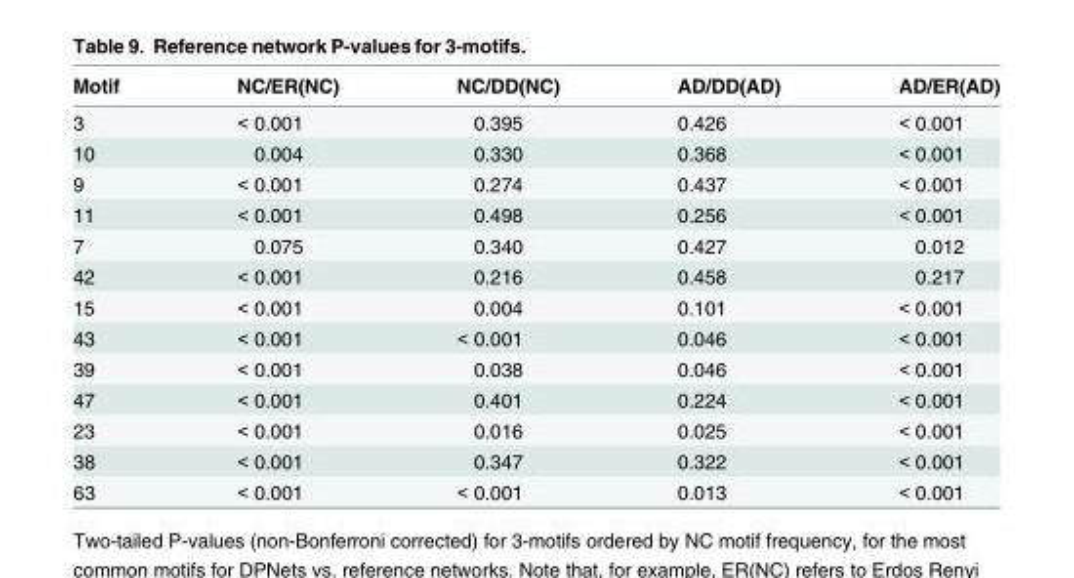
<table><thead><tr><td>Motif</td><td>NC/ER(NC)</td><td>NC/DD(NC)</td><td>AD/DD(AD)</td><td>AD/ER(AD)</td></tr></thead><tbody><tr><td>3</td><td>&lt; 0.001</td><td>0.395</td><td>0.426</td><td>&lt; 0.001</td></tr><tr><td>10</td><td>0.004</td><td>0.330</td><td>0.368</td><td>&lt; 0.001</td></tr><tr><td>9</td><td>&lt; 0.001</td><td>0.274</td><td>0.437</td><td>&lt; 0.001</td></tr><tr><td>11</td><td>&lt; 0.001</td><td>0.498</td><td>0.256</td><td>&lt; 0.001</td></tr><tr><td>7</td><td>0.075</td><td>0.340</td><td>0.427</td><td>0.012</td></tr><tr><td>42</td><td>&lt; 0.001</td><td>0.216</td><td>0.458</td><td>0.217</td></tr><tr><td>15</td><td>&lt; 0.001</td><td>0.004</td><td>0.101</td><td>&lt; 0.001</td></tr><tr><td>43</td><td>&lt; 0.001</td><td>&lt; 0.001</td><td>0.046</td><td>&lt; 0.001</td></tr><tr><td>39</td><td>&lt; 0.001</td><td>0.038</td><td>0.046</td><td>&lt; 0.001</td></tr><tr><td>47</td><td>&lt; 0.001</td><td>0.401</td><td>0.224</td><td>&lt; 0.001</td></tr><tr><td>23</td><td>&lt; 0.001</td><td>0.016</td><td>0.025</td><td>&lt; 0.001</td></tr><tr><td>38</td><td>&lt; 0.001</td><td>0.347</td><td>0.322</td><td>&lt; 0.001</td></tr><tr><td>63</td><td>&lt; 0.001</td><td>&lt; 0.001</td><td>0.013</td><td>&lt; 0.001</td></tr></tbody></table>